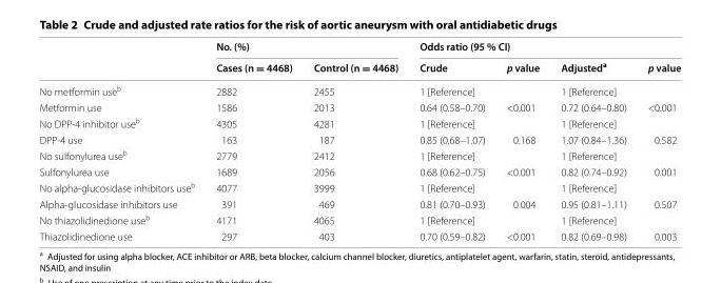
<table><thead><tr><td rowspan="2"></td><td colspan="2">No. (%)</td><td colspan="4">Odds ratio (95 % CI)</td></tr><tr><td>Cases (n = 4468)</td><td>Control (n = 4468)</td><td>Crude</td><td>p value</td><td>Adjusted<sup>a</sup></td><td>p value</td></tr></thead><tbody><tr><td>No metformin use<sup>b</sup></td><td>2882</td><td>2455</td><td>1 [Reference]</td><td></td><td>1 [Reference]</td><td></td></tr><tr><td>Metformin use</td><td>1586</td><td>2013</td><td>0.64 (0.58–0.70)</td><td>&lt;0.001</td><td>0.72 (0.64–0.80)</td><td>&lt;0.001</td></tr><tr><td>No DPP‑4 inhibitor use<sup>b</sup></td><td>4305</td><td>4281</td><td>1 [Reference]</td><td></td><td>1 [Reference]</td><td></td></tr><tr><td>DPP‑4 use</td><td>163</td><td>187</td><td>0.85 (0.68–1.07)</td><td>0.168</td><td>1.07 (0.84–1.36)</td><td>0.582</td></tr><tr><td>No sulfonylurea use<sup>b</sup></td><td>2779</td><td>2412</td><td>1 [Reference]</td><td></td><td>1 [Reference]</td><td></td></tr><tr><td>Sulfonylurea use</td><td>1689</td><td>2056</td><td>0.68 (0.62–0.75)</td><td>&lt;0.001</td><td>0.82 (0.74–0.92)</td><td>0.001</td></tr><tr><td>No alpha‑glucosidase inhibitors use<sup>b</sup></td><td>4077</td><td>3999</td><td>1 [Reference]</td><td></td><td>1 [Reference]</td><td></td></tr><tr><td>Alpha‑glucosidase inhibitors use</td><td>391</td><td>469</td><td>0.81 (0.70–0.93)</td><td>0.004</td><td>0.95 (0.81–1.11)</td><td>0.507</td></tr><tr><td>No thiazolidinedione use<sup>b</sup></td><td>4171</td><td>4065</td><td>1 [Reference]</td><td></td><td>1 [Reference]</td><td></td></tr><tr><td>Thiazolidinedione use</td><td>297</td><td>403</td><td>0.70 (0.59–0.82)</td><td>&lt;0.001</td><td>0.82 (0.69–0.98)</td><td>0.003</td></tr></tbody></table>